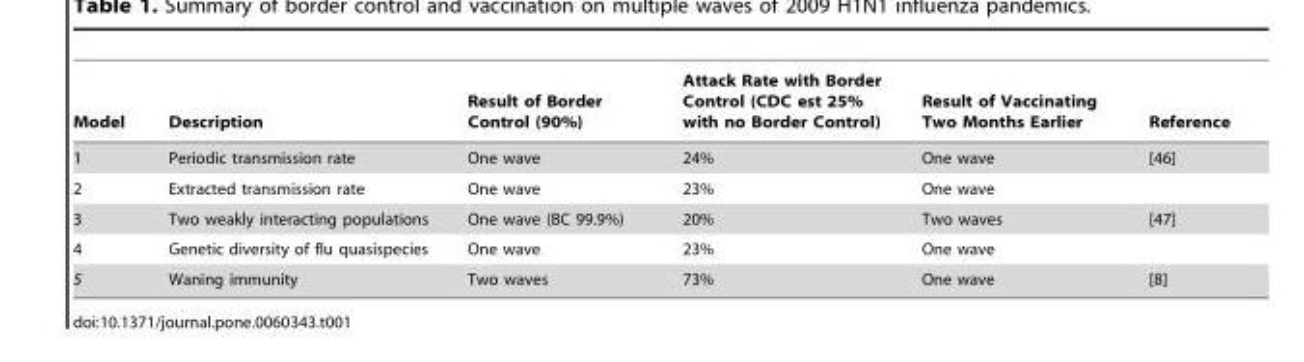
<table><thead><tr><td>Model</td><td>Description</td><td>Result of Border Control (90%)</td><td>Attack Rate with Border Control (CDC est 25% with no Border Control)</td><td>Result of Vaccinating Two Months Earlier</td><td>Reference</td></tr></thead><tbody><tr><td>1</td><td>Periodic transmission rate</td><td>One wave</td><td>24%</td><td>One wave</td><td>[46]</td></tr><tr><td>2</td><td>Extracted transmission rate</td><td>One wave</td><td>23%</td><td>One wave</td><td></td></tr><tr><td>3</td><td>Two weakly interacting populations</td><td>One wave (BC 99.9%)</td><td>20%</td><td>Two waves</td><td>[47]</td></tr><tr><td>4</td><td>Genetic diversity of flu quasispecies</td><td>One wave</td><td>23%</td><td>One wave</td><td></td></tr><tr><td>5</td><td>Waning immunity</td><td>Two waves</td><td>73%</td><td>One wave</td><td>[8]</td></tr></tbody></table>